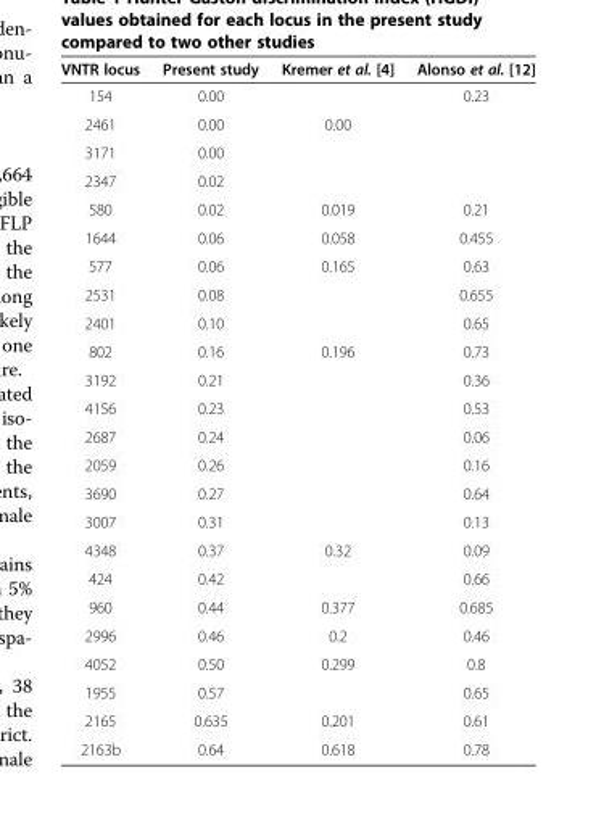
<table><thead><tr><td>VNTR locus</td><td>Present study</td><td>Kremer et al. [4]</td><td>Alonso et al. [12]</td></tr></thead><tbody><tr><td>154</td><td>0.00</td><td></td><td>0.23</td></tr><tr><td>2461</td><td>0.00</td><td>0.00</td><td></td></tr><tr><td>3171</td><td>0.00</td><td></td><td></td></tr><tr><td>2347</td><td>0.02</td><td></td><td></td></tr><tr><td>580</td><td>0.02</td><td>0.019</td><td>0.21</td></tr><tr><td>1644</td><td>0.06</td><td>0.058</td><td>0.455</td></tr><tr><td>577</td><td>0.06</td><td>0.165</td><td>0.63</td></tr><tr><td>2531</td><td>0.08</td><td></td><td>0.655</td></tr><tr><td>2401</td><td>0.10</td><td></td><td>0.65</td></tr><tr><td>802</td><td>0.16</td><td>0.196</td><td>0.73</td></tr><tr><td>3192</td><td>0.21</td><td></td><td>0.36</td></tr><tr><td>4156</td><td>0.23</td><td></td><td>0.53</td></tr><tr><td>2687</td><td>0.24</td><td></td><td>0.06</td></tr><tr><td>2059</td><td>0.26</td><td></td><td>0.16</td></tr><tr><td>3690</td><td>0.27</td><td></td><td>0.64</td></tr><tr><td>3007</td><td>0.31</td><td></td><td>0.13</td></tr><tr><td>4348</td><td>0.37</td><td>0.32</td><td>0.09</td></tr><tr><td>424</td><td>0.42</td><td></td><td>0.66</td></tr><tr><td>960</td><td>0.44</td><td>0.377</td><td>0.685</td></tr><tr><td>2996</td><td>0.46</td><td>0.2</td><td>0.46</td></tr><tr><td>4052</td><td>0.50</td><td>0.299</td><td>0.8</td></tr><tr><td>1955</td><td>0.57</td><td></td><td>0.65</td></tr><tr><td>2165</td><td>0.635</td><td>0.201</td><td>0.61</td></tr><tr><td>2163b</td><td>0.64</td><td>0.618</td><td>0.78</td></tr></tbody></table>